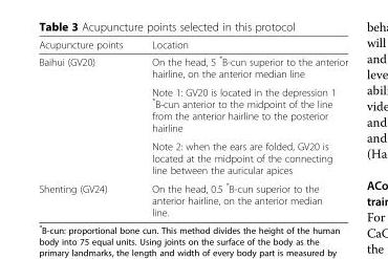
<table><thead><tr><td>Acupuncture points</td><td>Location</td></tr></thead><tbody><tr><td rowspan="3">Baihui (GV20)</td><td>On the head, 5 *B-cun superior to the anterior hairline, on the anterior median line</td></tr><tr><td>Note 1: GV20 is located in the depression 1 *B-cun anterior to the midpoint of the line from the anterior hairline to the posterior hairline</td></tr><tr><td>Note 2: when the ears are folded, GV20 is located at the midpoint of the connecting line between the auricular apices</td></tr><tr><td>Shenting (GV24)</td><td>On the head, 0.5 *B-cun superior to the anterior hairline, on the anterior median line.</td></tr></tbody></table>